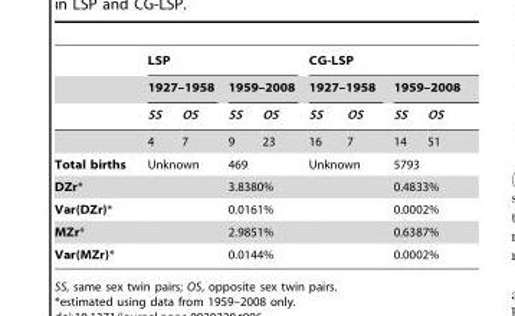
<table><thead><tr><td rowspan="3"></td><td colspan="4">LSP</td><td colspan="4">CG-LSP</td></tr><tr><td colspan="2">1927–1958</td><td colspan="2">1959–2008</td><td colspan="2">1927–1958</td><td colspan="2">1959–2008</td></tr><tr><td>SS</td><td>OS</td><td>SS</td><td>OS</td><td>SS</td><td>OS</td><td>SS</td><td>OS</td></tr></thead><tbody><tr><td></td><td>4</td><td>7</td><td>9</td><td>23</td><td>16</td><td>7</td><td>14</td><td>51</td></tr><tr><td>Total births</td><td colspan="2">Unknown</td><td colspan="2">469</td><td colspan="2">Unknown</td><td colspan="2">5793</td></tr><tr><td>DZr*</td><td colspan="2"></td><td colspan="2">3.8380%</td><td colspan="2"></td><td colspan="2">0.4833%</td></tr><tr><td>Var(DZr)*</td><td colspan="2"></td><td colspan="2">0.0161%</td><td colspan="2"></td><td colspan="2">0.0002%</td></tr><tr><td>MZr*</td><td colspan="2"></td><td colspan="2">2.9851%</td><td colspan="2"></td><td colspan="2">0.6387%</td></tr><tr><td>Var(MZr)*</td><td colspan="2"></td><td colspan="2">0.0144%</td><td colspan="2"></td><td colspan="2">0.0002%</td></tr></tbody></table>